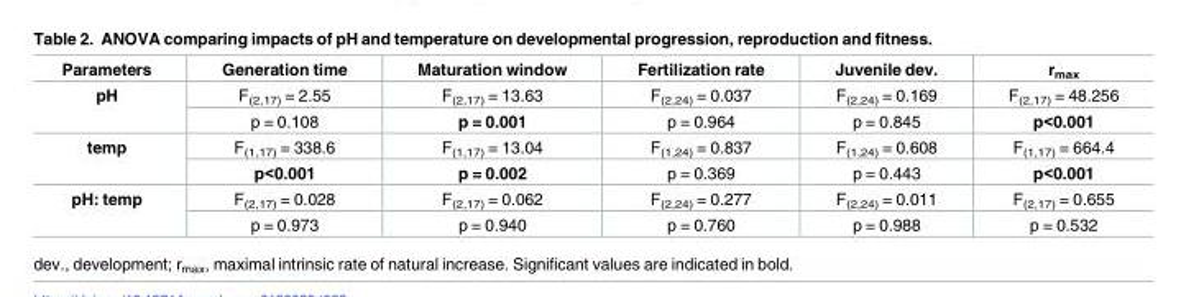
<table><thead><tr><td>Parameters</td><td>Generation time</td><td>Maturation window</td><td>Fertilization rate</td><td>Juvenile dev.</td><td>r<sub>max</sub></td></tr></thead><tbody><tr><td rowspan="2">pH</td><td>F<sub>(2,17)</sub> = 2.55</td><td>F<sub>(2,17)</sub> = 13.63</td><td>F<sub>(2,24)</sub> = 0.037</td><td>F<sub>(2,24)</sub> = 0.169</td><td>F<sub>(2,17)</sub> = 48.256</td></tr><tr><td>p = 0.108</td><td>p = 0.001</td><td>p = 0.964</td><td>p = 0.845</td><td>p&lt;0.001</td></tr><tr><td rowspan="2">temp</td><td>F<sub>(1,17)</sub> = 338.6</td><td>F<sub>(1,17)</sub> = 13.04</td><td>F<sub>(1,24)</sub> = 0.837</td><td>F<sub>(1,24)</sub> = 0.608</td><td>F<sub>(1,17)</sub> = 664.4</td></tr><tr><td>p&lt;0.001</td><td>p = 0.002</td><td>p = 0.369</td><td>p = 0.443</td><td>p&lt;0.001</td></tr><tr><td rowspan="2">pH: temp</td><td>F<sub>(2,17)</sub> = 0.028</td><td>F<sub>(2,17)</sub> = 0.062</td><td>F<sub>(2,24)</sub> = 0.277</td><td>F<sub>(2,24)</sub> = 0.011</td><td>F<sub>(2,17)</sub> = 0.655</td></tr><tr><td>p = 0.973</td><td>p = 0.940</td><td>p = 0.760</td><td>p = 0.988</td><td>p = 0.532</td></tr></tbody></table>